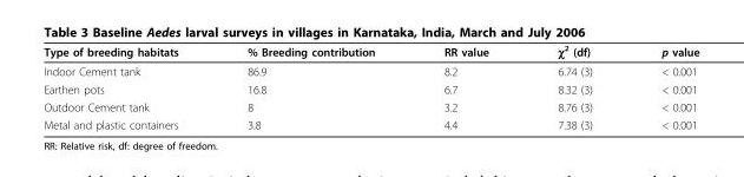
<table><thead><tr><td>Type of breeding habitats</td><td>% Breeding contribution</td><td>RR value</td><td>χ<sup>2</sup> (df)</td><td>p value</td></tr></thead><tbody><tr><td>Indoor Cement tank</td><td>86.9</td><td>8.2</td><td>6.74 (3)</td><td>&lt; 0.001</td></tr><tr><td>Earthen pots</td><td>16.8</td><td>6.7</td><td>8.32 (3)</td><td>&lt; 0.001</td></tr><tr><td>Outdoor Cement tank</td><td>8</td><td>3.2</td><td>8.76 (3)</td><td>&lt; 0.001</td></tr><tr><td>Metal and plastic containers</td><td>3.8</td><td>4.4</td><td>7.38 (3)</td><td>&lt; 0.001</td></tr></tbody></table>